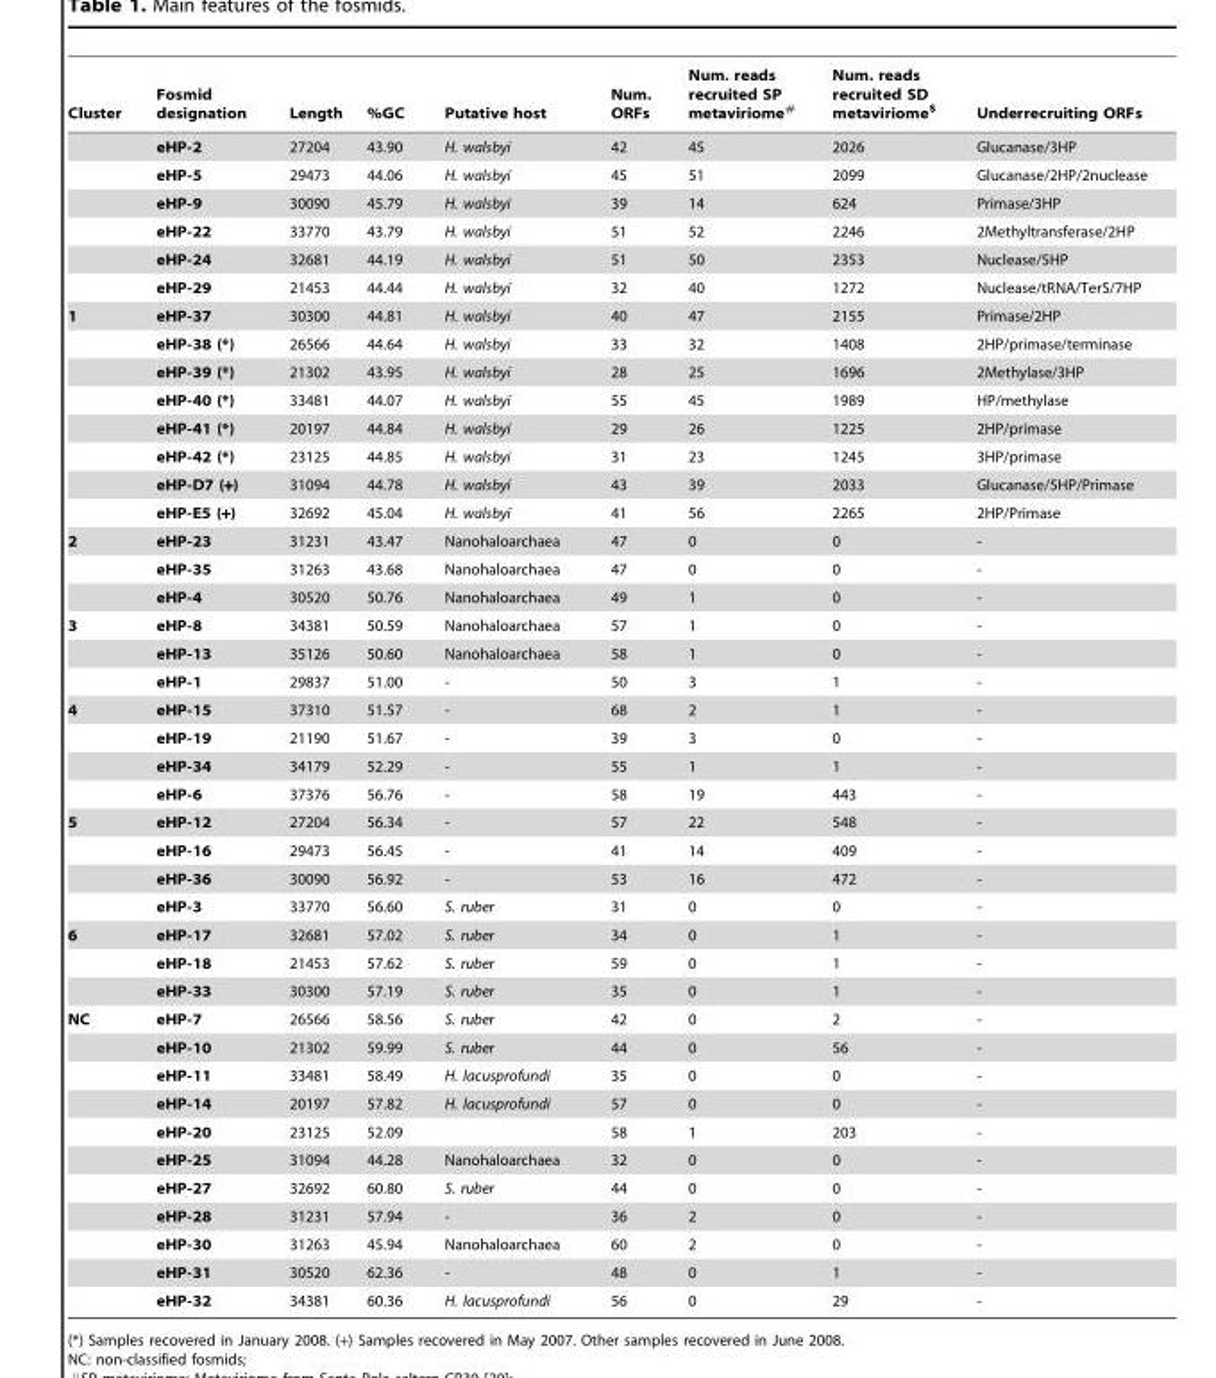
<table><thead><tr><td>Cluster</td><td>Fosmid designation</td><td>Length</td><td>%GC</td><td>Putative host</td><td>Num. ORFs</td><td>Num. reads recruited SP metaviriome#</td><td>Num. reads recruited SD metaviriome$</td><td>Underrecruiting ORFs</td></tr></thead><tbody><tr><td></td><td>eHP-2</td><td>27204</td><td>43.90</td><td>H. walsbyi</td><td>42</td><td>45</td><td>2026</td><td>Glucanase/3HP</td></tr><tr><td></td><td>eHP-5</td><td>29473</td><td>44.06</td><td>H. walsbyi</td><td>45</td><td>51</td><td>2099</td><td>Glucanase/2HP/2nuclease</td></tr><tr><td></td><td>eHP-9</td><td>30090</td><td>45.79</td><td>H. walsbyi</td><td>39</td><td>14</td><td>624</td><td>Primase/3HP</td></tr><tr><td></td><td>eHP-22</td><td>33770</td><td>43.79</td><td>H. walsbyi</td><td>51</td><td>52</td><td>2246</td><td>2Methyltransferase/2HP</td></tr><tr><td></td><td>eHP-24</td><td>32681</td><td>44.19</td><td>H. walsbyi</td><td>51</td><td>50</td><td>2353</td><td>Nuclease/5HP</td></tr><tr><td></td><td>eHP-29</td><td>21453</td><td>44.44</td><td>H. walsbyi</td><td>32</td><td>40</td><td>1272</td><td>Nuclease/tRNA/TerS/7HP</td></tr><tr><td rowspan="8">1</td><td>eHP-37</td><td>30300</td><td>44.81</td><td>H. walsbyi</td><td>40</td><td>47</td><td>2155</td><td>Primase/2HP</td></tr><tr><td>eHP-38 (*)</td><td>26566</td><td>44.64</td><td>H. walsbyi</td><td>33</td><td>32</td><td>1408</td><td>2HP/primase/terminase</td></tr><tr><td>eHP-39 (*)</td><td>21302</td><td>43.95</td><td>H. walsbyi</td><td>28</td><td>25</td><td>1696</td><td>2Methylase/3HP</td></tr><tr><td>eHP-40 (*)</td><td>33481</td><td>44.07</td><td>H. walsbyi</td><td>55</td><td>45</td><td>1989</td><td>HP/methylase</td></tr><tr><td>eHP-41 (*)</td><td>20197</td><td>44.84</td><td>H. walsbyi</td><td>29</td><td>26</td><td>1225</td><td>2HP/primase</td></tr><tr><td>eHP-42 (*)</td><td>23125</td><td>44.85</td><td>H. walsbyi</td><td>31</td><td>23</td><td>1245</td><td>3HP/primase</td></tr><tr><td>eHP-D7 (+)</td><td>31094</td><td>44.78</td><td>H. walsbyi</td><td>43</td><td>39</td><td>2033</td><td>Glucanase/5HP/Primase</td></tr><tr><td>eHP-E5 (+)</td><td>32692</td><td>45.04</td><td>H. walsbyi</td><td>41</td><td>56</td><td>2265</td><td>2HP/Primase</td></tr><tr><td rowspan="3">2</td><td>eHP-23</td><td>31231</td><td>43.47</td><td>Nanohaloarchaea</td><td>47</td><td>0</td><td>0</td><td>-</td></tr><tr><td>eHP-35</td><td>31263</td><td>43.68</td><td>Nanohaloarchaea</td><td>47</td><td>0</td><td>0</td><td>-</td></tr><tr><td>eHP-4</td><td>30520</td><td>50.76</td><td>Nanohaloarchaea</td><td>49</td><td>1</td><td>0</td><td>-</td></tr><tr><td rowspan="3">3</td><td>eHP-8</td><td>34381</td><td>50.59</td><td>Nanohaloarchaea</td><td>57</td><td>1</td><td>0</td><td>-</td></tr><tr><td>eHP-13</td><td>35126</td><td>50.60</td><td>Nanohaloarchaea</td><td>58</td><td>1</td><td>0</td><td>-</td></tr><tr><td>eHP-1</td><td>29837</td><td>51.00</td><td>-</td><td>50</td><td>3</td><td>1</td><td>-</td></tr><tr><td rowspan="4">4</td><td>eHP-15</td><td>37310</td><td>51.57</td><td>-</td><td>68</td><td>2</td><td>1</td><td>-</td></tr><tr><td>eHP-19</td><td>21190</td><td>51.67</td><td>-</td><td>39</td><td>3</td><td>0</td><td>-</td></tr><tr><td>eHP-34</td><td>34179</td><td>52.29</td><td>-</td><td>55</td><td>1</td><td>1</td><td>-</td></tr><tr><td>eHP-6</td><td>37376</td><td>56.76</td><td>-</td><td>58</td><td>19</td><td>443</td><td>-</td></tr><tr><td rowspan="4">5</td><td>eHP-12</td><td>27204</td><td>56.34</td><td>-</td><td>57</td><td>22</td><td>548</td><td>-</td></tr><tr><td>eHP-16</td><td>29473</td><td>56.45</td><td>-</td><td>41</td><td>14</td><td>409</td><td>-</td></tr><tr><td>eHP-36</td><td>30090</td><td>56.92</td><td>-</td><td>53</td><td>16</td><td>472</td><td>-</td></tr><tr><td>eHP-3</td><td>33770</td><td>56.60</td><td>S. ruber</td><td>31</td><td>0</td><td>0</td><td>-</td></tr><tr><td rowspan="3">6</td><td>eHP-17</td><td>32681</td><td>57.02</td><td>S. ruber</td><td>34</td><td>0</td><td>1</td><td>-</td></tr><tr><td>eHP-18</td><td>21453</td><td>57.62</td><td>S. ruber</td><td>59</td><td>0</td><td>1</td><td>-</td></tr><tr><td>eHP-33</td><td>30300</td><td>57.19</td><td>S. ruber</td><td>35</td><td>0</td><td>1</td><td>-</td></tr><tr><td rowspan="11">NC</td><td>eHP-7</td><td>26566</td><td>58.56</td><td>S. ruber</td><td>42</td><td>0</td><td>2</td><td>-</td></tr><tr><td>eHP-10</td><td>21302</td><td>59.99</td><td>S. ruber</td><td>44</td><td>0</td><td>56</td><td>-</td></tr><tr><td>eHP-11</td><td>33481</td><td>58.49</td><td>H. lacusprofundi</td><td>35</td><td>0</td><td>0</td><td>-</td></tr><tr><td>eHP-14</td><td>20197</td><td>57.82</td><td>H. lacusprofundi</td><td>57</td><td>0</td><td>0</td><td>-</td></tr><tr><td>eHP-20</td><td>23125</td><td>52.09</td><td></td><td>58</td><td>1</td><td>203</td><td>-</td></tr><tr><td>eHP-25</td><td>31094</td><td>44.28</td><td>Nanohaloarchaea</td><td>32</td><td>0</td><td>0</td><td>-</td></tr><tr><td>eHP-27</td><td>32692</td><td>60.80</td><td>S. ruber</td><td>44</td><td>0</td><td>0</td><td>-</td></tr><tr><td>eHP-28</td><td>31231</td><td>57.94</td><td>-</td><td>36</td><td>2</td><td>0</td><td>-</td></tr><tr><td>eHP-30</td><td>31263</td><td>45.94</td><td>Nanohaloarchaea</td><td>60</td><td>2</td><td>0</td><td>-</td></tr><tr><td>eHP-31</td><td>30520</td><td>62.36</td><td>-</td><td>48</td><td>0</td><td>1</td><td>-</td></tr><tr><td>eHP-32</td><td>34381</td><td>60.36</td><td>H. lacusprofundi</td><td>56</td><td>0</td><td>29</td><td>-</td></tr></tbody></table>